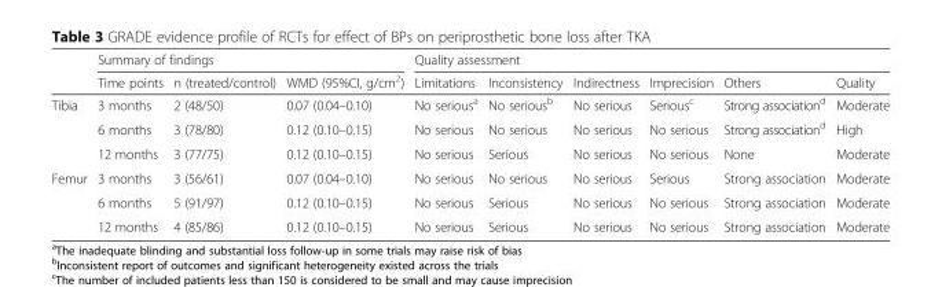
<table><thead><tr><td rowspan="2"></td><td colspan="3">Summary of findings</td><td colspan="6">Quality assessment</td></tr><tr><td>Time points</td><td>n (treated/control)</td><td>WMD (95%CI, g/cm<sup>2</sup>)</td><td>Limitations</td><td>Inconsistency</td><td>Indirectness</td><td>Imprecision</td><td>Others</td><td>Quality</td></tr></thead><tbody><tr><td rowspan="3">Tibia</td><td>3 months</td><td>2 (48/50)</td><td>0.07 (0.04–0.10)</td><td>No serious<sup>a</sup></td><td>No serious<sup>b</sup></td><td>No serious</td><td>Serious<sup>c</sup></td><td>Strong association<sup>d</sup></td><td>Moderate</td></tr><tr><td>6 months</td><td>3 (78/80)</td><td>0.12 (0.10–0.15)</td><td>No serious</td><td>No serious</td><td>No serious</td><td>No serious</td><td>Strong association<sup>d</sup></td><td>High</td></tr><tr><td>12 months</td><td>3 (77/75)</td><td>0.12 (0.10–0.15)</td><td>No serious</td><td>Serious</td><td>No serious</td><td>No serious</td><td>None</td><td>Moderate</td></tr><tr><td rowspan="3">Femur</td><td>3 months</td><td>3 (56/61)</td><td>0.07 (0.04–0.10)</td><td>No serious</td><td>No serious</td><td>No serious</td><td>Serious</td><td>Strong association</td><td>Moderate</td></tr><tr><td>6 months</td><td>5 (91/97)</td><td>0.12 (0.10–0.15)</td><td>No serious</td><td>Serious</td><td>No serious</td><td>No serious</td><td>Strong association</td><td>Moderate</td></tr><tr><td>12 months</td><td>4 (85/86)</td><td>0.12 (0.10–0.15)</td><td>No serious</td><td>Serious</td><td>No serious</td><td>No serious</td><td>Strong association</td><td>Moderate</td></tr></tbody></table>